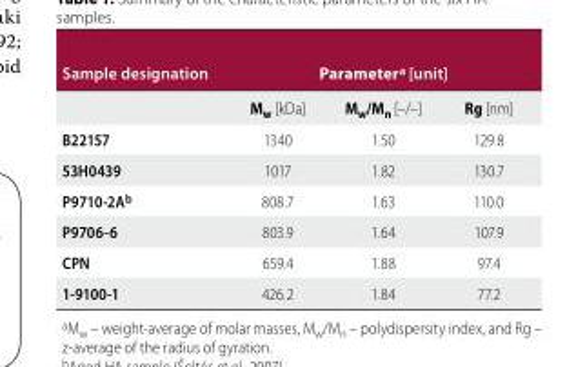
<table><thead><tr><td rowspan="2">Sample designation</td><td colspan="3">Parameter<sup>a</sup> [unit]</td></tr><tr><td>M<sub>w</sub> [kDa]</td><td>M<sub>w</sub>/M<sub>n</sub> [–/–]</td><td>Rg [nm]</td></tr></thead><tbody><tr><td>B22157</td><td>1340</td><td>1.50</td><td>129.8</td></tr><tr><td>53H0439</td><td>1017</td><td>1.82</td><td>130.7</td></tr><tr><td>P9710-2A<sup>b</sup></td><td>808.7</td><td>1.63</td><td>110.0</td></tr><tr><td>P9706-6</td><td>803.9</td><td>1.64</td><td>107.9</td></tr><tr><td>CPN</td><td>659.4</td><td>1.88</td><td>97.4</td></tr><tr><td>1-9100-1</td><td>426.2</td><td>1.84</td><td>77.2</td></tr></tbody></table>